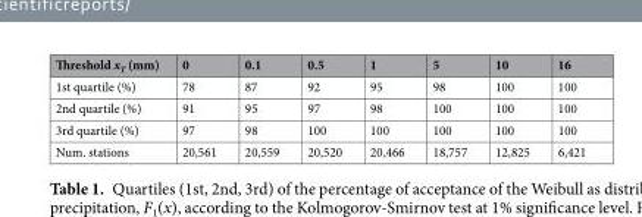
<table><thead><tr><td>Threshold x<sub>T</sub> (mm)</td><td>0</td><td>0.1</td><td>0.5</td><td>1</td><td>5</td><td>10</td><td>16</td></tr></thead><tbody><tr><td>1st quartile (%)</td><td>78</td><td>87</td><td>92</td><td>95</td><td>98</td><td>100</td><td>100</td></tr><tr><td>2nd quartile (%)</td><td>91</td><td>95</td><td>97</td><td>98</td><td>100</td><td>100</td><td>100</td></tr><tr><td>3rd quartile (%)</td><td>97</td><td>98</td><td>100</td><td>100</td><td>100</td><td>100</td><td>100</td></tr><tr><td>Num. stations</td><td>20,561</td><td>20,559</td><td>20,520</td><td>20,466</td><td>18,757</td><td>12,825</td><td>6,421</td></tr></tbody></table>